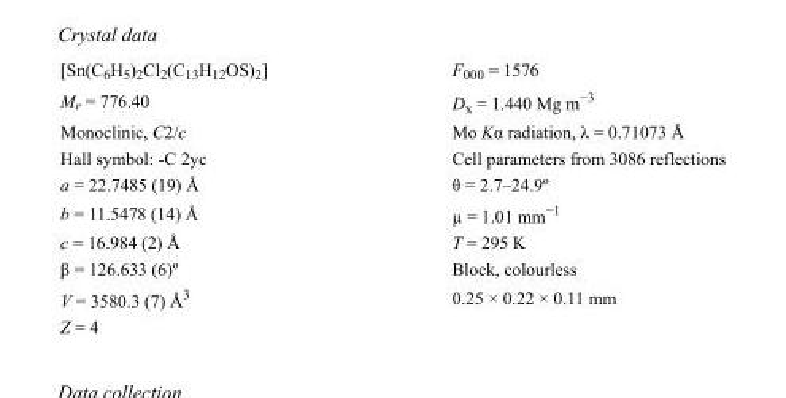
<table><tbody><tr><td>[Sn(C<sub>6</sub>H<sub>5</sub>)<sub>2</sub>Cl<sub>2</sub>(C<sub>13</sub>H<sub>12</sub>OS)<sub>2</sub>]</td><td>F000 = 1576</td></tr><tr><td>M<sub>r</sub> = 776.40</td><td>D<sub>x</sub> = 1.440 Mg m<sup>−3</sup></td></tr><tr><td>Monoclinic, C2/c</td><td>Mo Kα radiation, λ = 0.71073 Å</td></tr><tr><td>Hall symbol: -C 2yc</td><td>Cell parameters from 3086 reflections</td></tr><tr><td>a = 22.7485 (19) Å</td><td>θ = 2.7–24.9º</td></tr><tr><td>b = 11.5478 (14) Å</td><td>µ = 1.01 mm<sup>−1</sup></td></tr><tr><td>c = 16.984 (2) Å</td><td>T = 295 K</td></tr><tr><td>β = 126.633 (6)º</td><td>Block, colourless</td></tr><tr><td>V = 3580.3 (7) Å<sup>3</sup></td><td>0.25 × 0.22 × 0.11 mm</td></tr><tr><td>Z = 4</td><td></td></tr></tbody></table>